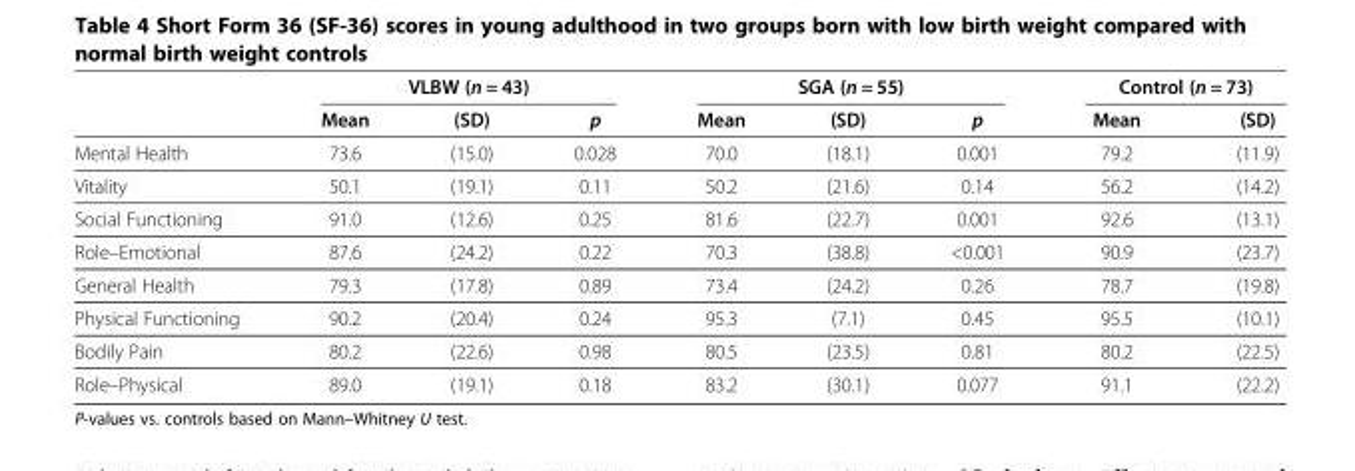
<table><thead><tr><td rowspan="2"></td><td colspan="3">VLBW (n = 43)</td><td colspan="3">SGA (n = 55)</td><td colspan="2">Control (n = 73)</td></tr><tr><td>Mean</td><td>(SD)</td><td>p</td><td>Mean</td><td>(SD)</td><td>p</td><td>Mean</td><td>(SD)</td></tr></thead><tbody><tr><td>Mental Health</td><td>73.6</td><td>(15.0)</td><td>0.028</td><td>70.0</td><td>(18.1)</td><td>0.001</td><td>79.2</td><td>(11.9)</td></tr><tr><td>Vitality</td><td>50.1</td><td>(19.1)</td><td>0.11</td><td>50.2</td><td>(21.6)</td><td>0.14</td><td>56.2</td><td>(14.2)</td></tr><tr><td>Social Functioning</td><td>91.0</td><td>(12.6)</td><td>0.25</td><td>81.6</td><td>(22.7)</td><td>0.001</td><td>92.6</td><td>(13.1)</td></tr><tr><td>Role–Emotional</td><td>87.6</td><td>(24.2)</td><td>0.22</td><td>70.3</td><td>(38.8)</td><td>&lt;0.001</td><td>90.9</td><td>(23.7)</td></tr><tr><td>General Health</td><td>79.3</td><td>(17.8)</td><td>0.89</td><td>73.4</td><td>(24.2)</td><td>0.26</td><td>78.7</td><td>(19.8)</td></tr><tr><td>Physical Functioning</td><td>90.2</td><td>(20.4)</td><td>0.24</td><td>95.3</td><td>(7.1)</td><td>0.45</td><td>95.5</td><td>(10.1)</td></tr><tr><td>Bodily Pain</td><td>80.2</td><td>(22.6)</td><td>0.98</td><td>80.5</td><td>(23.5)</td><td>0.81</td><td>80.2</td><td>(22.5)</td></tr><tr><td>Role–Physical</td><td>89.0</td><td>(19.1)</td><td>0.18</td><td>83.2</td><td>(30.1)</td><td>0.077</td><td>91.1</td><td>(22.2)</td></tr></tbody></table>